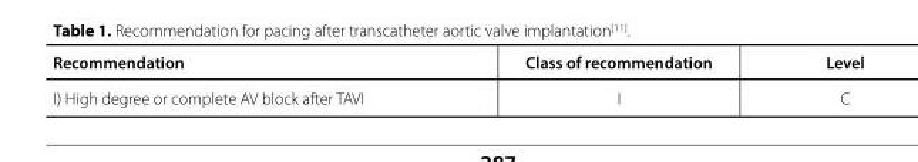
<table><thead><tr><td>Recommendation</td><td>Class of recommendation</td><td>Level</td></tr></thead><tbody><tr><td>I) High degree or complete AV block after TAVI</td><td>I</td><td>C</td></tr></tbody></table>